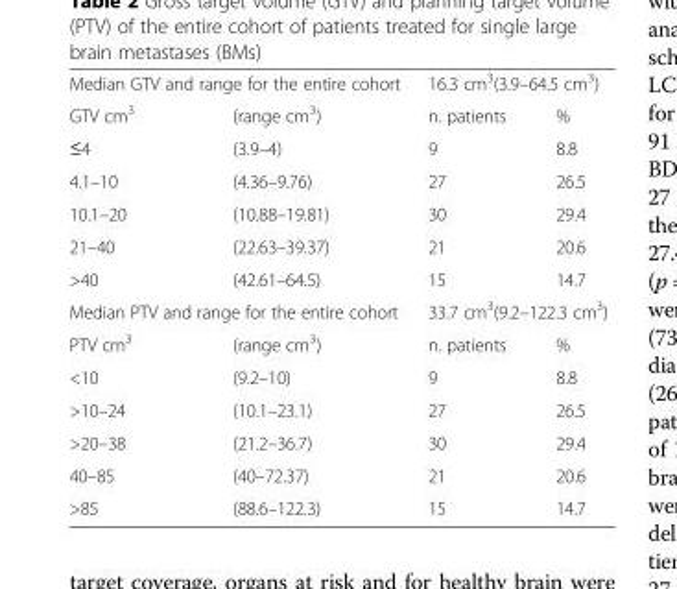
<table><tbody><tr><td colspan="2">Median GTV and range for the entire cohort</td><td colspan="2">16.3 cm<sup>3</sup>(3.9–64.5 cm<sup>3</sup>)</td></tr><tr><td>GTV cm<sup>3</sup></td><td>(range cm<sup>3</sup>)</td><td>n. patients</td><td>%</td></tr><tr><td>≤4</td><td>(3.9–4)</td><td>9</td><td>8.8</td></tr><tr><td>4.1–10</td><td>(4.36–9.76)</td><td>27</td><td>26.5</td></tr><tr><td>10.1–20</td><td>(10.88–19.81)</td><td>30</td><td>29.4</td></tr><tr><td>21–40</td><td>(22.63–39.37)</td><td>21</td><td>20.6</td></tr><tr><td>&gt;40</td><td>(42.61–64.5)</td><td>15</td><td>14.7</td></tr><tr><td colspan="2">Median PTV and range for the entire cohort</td><td colspan="2">33.7 cm<sup>3</sup>(9.2–122.3 cm<sup>3</sup>)</td></tr><tr><td>PTV cm<sup>3</sup></td><td>(range cm<sup>3</sup>)</td><td>n. patients</td><td>%</td></tr><tr><td>&lt;10</td><td>(9.2–10)</td><td>9</td><td>8.8</td></tr><tr><td>&gt;10–24</td><td>(10.1–23.1)</td><td>27</td><td>26.5</td></tr><tr><td>&gt;20–38</td><td>(21.2–36.7)</td><td>30</td><td>29.4</td></tr><tr><td>40–85</td><td>(40–72.37)</td><td>21</td><td>20.6</td></tr><tr><td>&gt;85</td><td>(88.6–122.3)</td><td>15</td><td>14.7</td></tr></tbody></table>